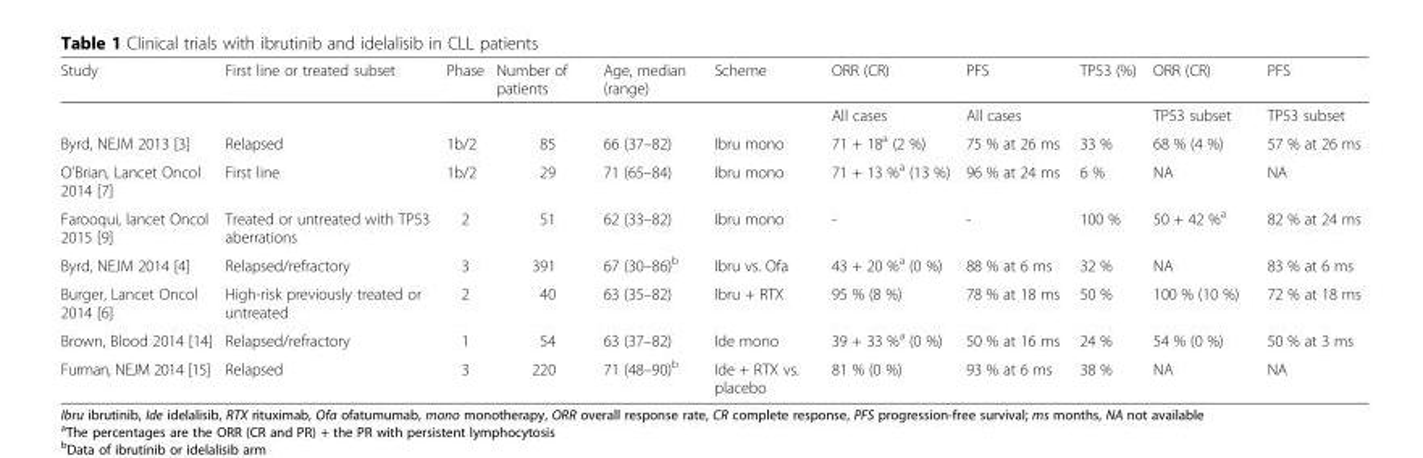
<table><thead><tr><td>Study</td><td>First line or treated subset</td><td>Phase</td><td>Number of patients</td><td>Age, median (range)</td><td>Scheme</td><td>ORR (CR)</td><td>PFS</td><td>TP53 (%)</td><td>ORR (CR)</td><td>PFS</td></tr></thead><tbody><tr><td></td><td></td><td></td><td></td><td></td><td></td><td>All cases</td><td>All cases</td><td></td><td>TP53 subset</td><td>TP53 subset</td></tr><tr><td>Byrd, NEJM 2013 [3]</td><td>Relapsed</td><td>1b/2</td><td>85</td><td>66 (37–82)</td><td>Ibru mono</td><td>71 + 18<sup>a</sup> (2 %)</td><td>75 % at 26 ms</td><td>33 %</td><td>68 % (4 %)</td><td>57 % at 26 ms</td></tr><tr><td>O’Brian, Lancet Oncol 2014 [7]</td><td>First line</td><td>1b/2</td><td>29</td><td>71 (65–84)</td><td>Ibru mono</td><td>71 + 13 %<sup>a</sup> (13 %)</td><td>96 % at 24 ms</td><td>6 %</td><td>NA</td><td>NA</td></tr><tr><td>Farooqui, lancet Oncol 2015 [9]</td><td>Treated or untreated with TP53 aberrations</td><td>2</td><td>51</td><td>62 (33–82)</td><td>Ibru mono</td><td>-</td><td>-</td><td>100 %</td><td>50 + 42 %<sup>a</sup></td><td>82 % at 24 ms</td></tr><tr><td>Byrd, NEJM 2014 [4]</td><td>Relapsed/refractory</td><td>3</td><td>391</td><td>67 (30–86)<sup>b</sup></td><td>Ibru vs. Ofa</td><td>43 + 20 %<sup>a</sup> (0 %)</td><td>88 % at 6 ms</td><td>32 %</td><td>NA</td><td>83 % at 6 ms</td></tr><tr><td>Burger, Lancet Oncol 2014 [6]</td><td>High-risk previously treated or untreated</td><td>2</td><td>40</td><td>63 (35–82)</td><td>Ibru + RTX</td><td>95 % (8 %)</td><td>78 % at 18 ms</td><td>50 %</td><td>100 % (10 %)</td><td>72 % at 18 ms</td></tr><tr><td>Brown, Blood 2014 [14]</td><td>Relapsed/refractory</td><td>1</td><td>54</td><td>63 (37–82)</td><td>Ide mono</td><td>39 + 33 %<sup>a</sup> (0 %)</td><td>50 % at 16 ms</td><td>24 %</td><td>54 % (0 %)</td><td>50 % at 3 ms</td></tr><tr><td>Furman, NEJM 2014 [15]</td><td>Relapsed</td><td>3</td><td>220</td><td>71 (48–90)<sup>b</sup></td><td>Ide + RTX vs. placebo</td><td>81 % (0 %)</td><td>93 % at 6 ms</td><td>38 %</td><td>NA</td><td>NA</td></tr></tbody></table>